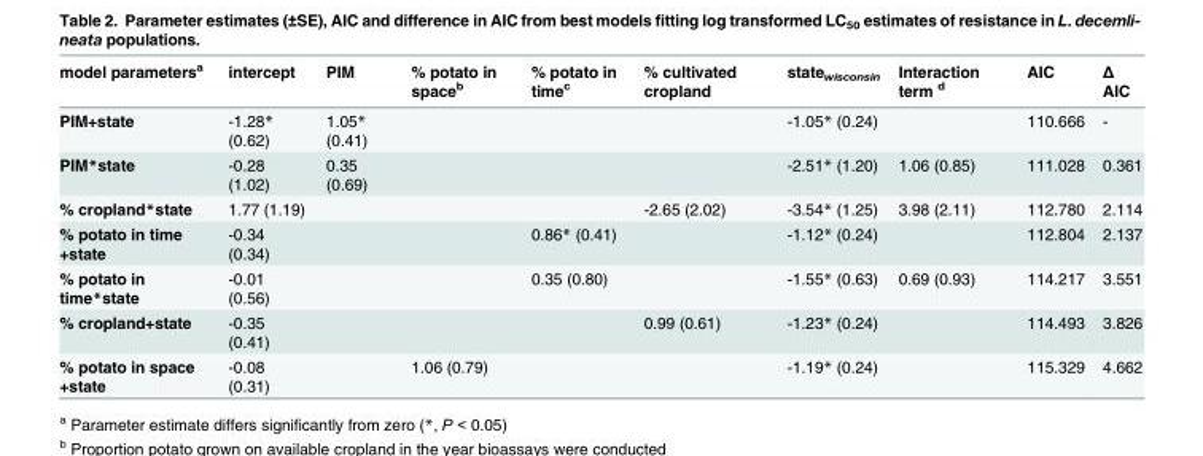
<table><thead><tr><td>model parameters<sup>a</sup></td><td>intercept</td><td>PIM</td><td>% potato in space<sup>b</sup></td><td>% potato in time<sup>c</sup></td><td>% cultivated cropland</td><td>state<sub>wisconsin</sub></td><td>Interaction term <sup>d</sup></td><td>AIC</td><td>Δ AIC</td></tr></thead><tbody><tr><td>PIM+state</td><td>-1.28* (0.62)</td><td>1.05* (0.41)</td><td></td><td></td><td></td><td>-1.05* (0.24)</td><td></td><td>110.666</td><td>-</td></tr><tr><td>PIM*state</td><td>-0.28 (1.02)</td><td>0.35 (0.69)</td><td></td><td></td><td></td><td>-2.51* (1.20)</td><td>1.06 (0.85)</td><td>111.028</td><td>0.361</td></tr><tr><td>% cropland*state</td><td>1.77 (1.19)</td><td></td><td></td><td></td><td>-2.65 (2.02)</td><td>-3.54* (1.25)</td><td>3.98 (2.11)</td><td>112.780</td><td>2.114</td></tr><tr><td>% potato in time +state</td><td>-0.34 (0.34)</td><td></td><td></td><td>0.86* (0.41)</td><td></td><td>-1.12* (0.24)</td><td></td><td>112.804</td><td>2.137</td></tr><tr><td>% potato in time*state</td><td>-0.01 (0.56)</td><td></td><td></td><td>0.35 (0.80)</td><td></td><td>-1.55* (0.63)</td><td>0.69 (0.93)</td><td>114.217</td><td>3.551</td></tr><tr><td>% cropland+state</td><td>-0.35 (0.41)</td><td></td><td></td><td></td><td>0.99 (0.61)</td><td>-1.23* (0.24)</td><td></td><td>114.493</td><td>3.826</td></tr><tr><td>% potato in space +state</td><td>-0.08 (0.31)</td><td></td><td>1.06 (0.79)</td><td></td><td></td><td>-1.19* (0.24)</td><td></td><td>115.329</td><td>4.662</td></tr></tbody></table>